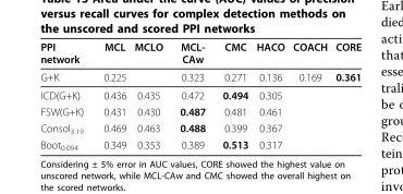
<table><thead><tr><td>PPI network</td><td>MCL</td><td>MCLO</td><td>MCL- CAw</td><td>CMC</td><td>HACO</td><td>COACH</td><td>CORE</td></tr></thead><tbody><tr><td>G+K</td><td>0.225</td><td></td><td>0.323</td><td>0.271</td><td>0.136</td><td>0.169</td><td>0.361</td></tr><tr><td>ICD(G+K)</td><td>0.436</td><td>0.435</td><td>0.472</td><td>0.494</td><td>0.305</td><td></td><td></td></tr><tr><td>FSW(G+K)</td><td>0.431</td><td>0.430</td><td>0.487</td><td>0.481</td><td>0.461</td><td></td><td></td></tr><tr><td>Consol<sub>3.19</sub></td><td>0.469</td><td>0.463</td><td>0.488</td><td>0.399</td><td>0.367</td><td></td><td></td></tr><tr><td>Boot<sub>0.094</sub></td><td>0.349</td><td>0.353</td><td>0.389</td><td>0.513</td><td>0.317</td><td></td><td></td></tr></tbody></table>